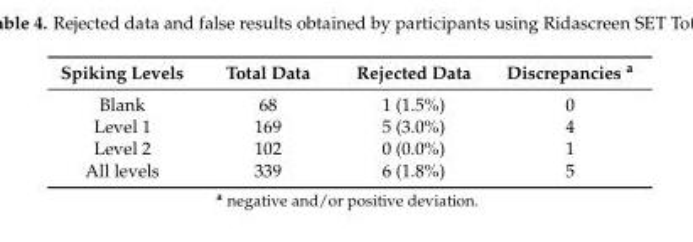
<table><thead><tr><td>Spiking Levels</td><td>Total Data</td><td>Rejected Data</td><td>Discrepancies <sup>a</sup></td></tr></thead><tbody><tr><td>Blank</td><td>68</td><td>1 (1.5%)</td><td>0</td></tr><tr><td>Level 1</td><td>169</td><td>5 (3.0%)</td><td>4</td></tr><tr><td>Level 2</td><td>102</td><td>0 (0.0%)</td><td>1</td></tr><tr><td>All levels</td><td>339</td><td>6 (1.8%)</td><td>5</td></tr></tbody></table>